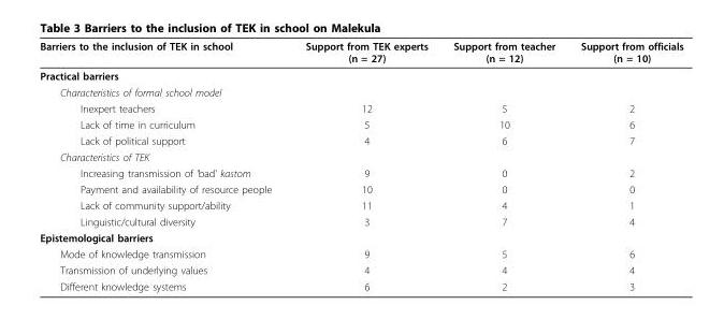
<table><thead><tr><td>Barriers to the inclusion of TEK in school</td><td>Support from TEK experts (n = 27)</td><td>Support from teacher (n = 12)</td><td>Support from officials (n = 10)</td></tr></thead><tbody><tr><td colspan="4">Practical barriers</td></tr><tr><td colspan="4">Characteristics of formal school model</td></tr><tr><td>Inexpert teachers</td><td>12</td><td>5</td><td>2</td></tr><tr><td>Lack of time in curriculum</td><td>5</td><td>10</td><td>6</td></tr><tr><td>Lack of political support</td><td>4</td><td>6</td><td>7</td></tr><tr><td colspan="4">Characteristics of TEK</td></tr><tr><td>Increasing transmission of ‘bad’ kastom</td><td>9</td><td>0</td><td>2</td></tr><tr><td>Payment and availability of resource people</td><td>10</td><td>0</td><td>0</td></tr><tr><td>Lack of community support/ability</td><td>11</td><td>4</td><td>1</td></tr><tr><td>Linguistic/cultural diversity</td><td>3</td><td>7</td><td>4</td></tr><tr><td colspan="4">Epistemological barriers</td></tr><tr><td>Mode of knowledge transmission</td><td>9</td><td>5</td><td>6</td></tr><tr><td>Transmission of underlying values</td><td>4</td><td>4</td><td>4</td></tr><tr><td>Different knowledge systems</td><td>6</td><td>2</td><td>3</td></tr></tbody></table>